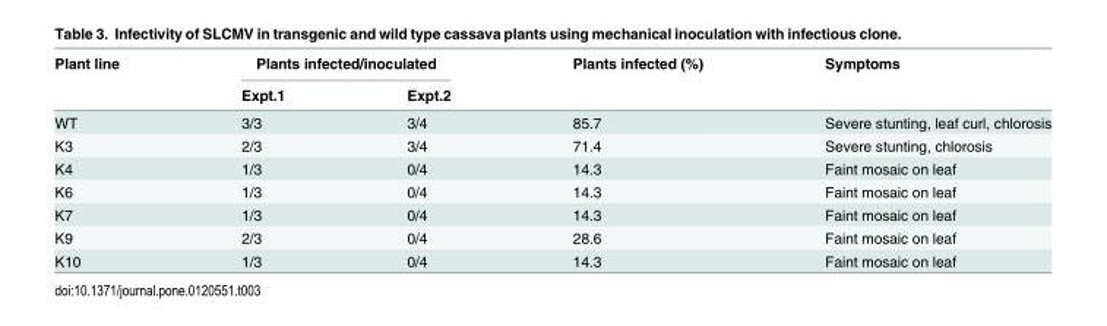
<table><thead><tr><td rowspan="2">Plant line</td><td colspan="2">Plants infected/inoculated</td><td rowspan="2">Plants infected (%)</td><td rowspan="2">Symptoms</td></tr><tr><td>Expt.1</td><td>Expt.2</td></tr></thead><tbody><tr><td>WT</td><td>3/3</td><td>3/4</td><td>85.7</td><td>Severe stunting, leaf curl, chlorosis</td></tr><tr><td>K3</td><td>2/3</td><td>3/4</td><td>71.4</td><td>Severe stunting, chlorosis</td></tr><tr><td>K4</td><td>1/3</td><td>0/4</td><td>14.3</td><td>Faint mosaic on leaf</td></tr><tr><td>K6</td><td>1/3</td><td>0/4</td><td>14.3</td><td>Faint mosaic on leaf</td></tr><tr><td>K7</td><td>1/3</td><td>0/4</td><td>14.3</td><td>Faint mosaic on leaf</td></tr><tr><td>K9</td><td>2/3</td><td>0/4</td><td>28.6</td><td>Faint mosaic on leaf</td></tr><tr><td>K10</td><td>1/3</td><td>0/4</td><td>14.3</td><td>Faint mosaic on leaf</td></tr></tbody></table>